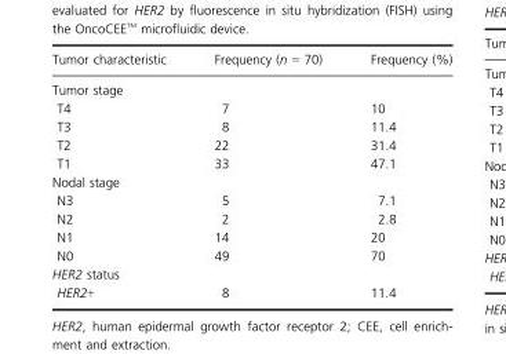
<table><thead><tr><td>Tumor characteristic</td><td>Frequency (n = 70)</td><td>Frequency (%)</td></tr></thead><tbody><tr><td colspan="3">Tumor stage</td></tr><tr><td>T4</td><td>7</td><td>10</td></tr><tr><td>T3</td><td>8</td><td>11.4</td></tr><tr><td>T2</td><td>22</td><td>31.4</td></tr><tr><td>T1</td><td>33</td><td>47.1</td></tr><tr><td colspan="3">Nodal stage</td></tr><tr><td>N3</td><td>5</td><td>7.1</td></tr><tr><td>N2</td><td>2</td><td>2.8</td></tr><tr><td>N1</td><td>14</td><td>20</td></tr><tr><td>N0</td><td>49</td><td>70</td></tr><tr><td colspan="3">HER2 status</td></tr><tr><td>HER2+</td><td>8</td><td>11.4</td></tr></tbody></table>